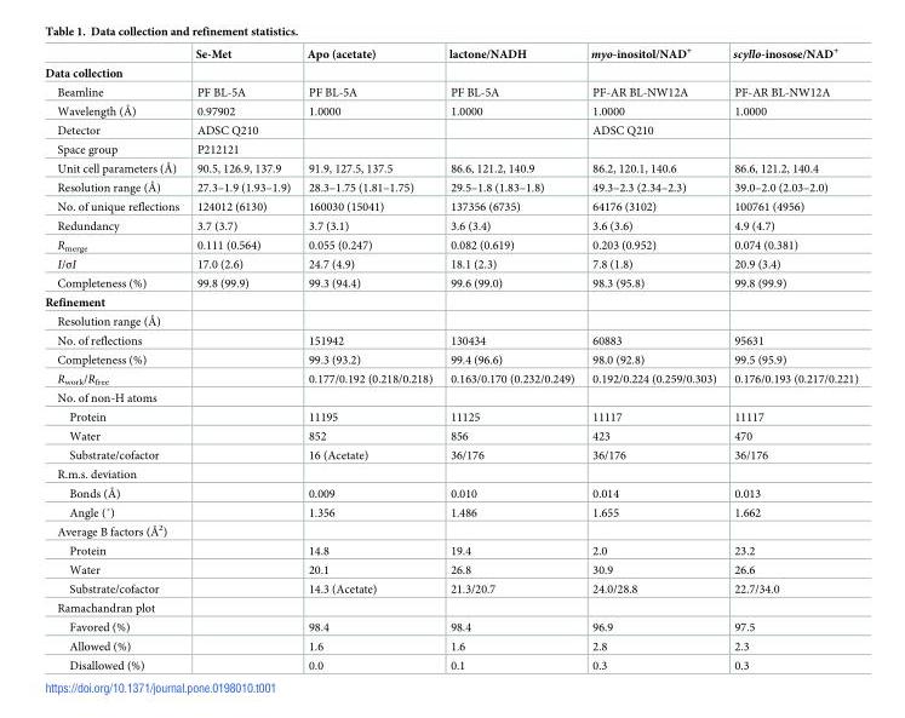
<table><thead><tr><td></td><td>Se-Met</td><td>Apo (acetate)</td><td>lactone/NADH</td><td>myo-inositol/NAD<sup>+</sup></td><td>scyllo-inosose/NAD<sup>+</sup></td></tr></thead><tbody><tr><td colspan="6">Data collection</td></tr><tr><td>Beamline</td><td>PF BL-5A</td><td>PF BL-5A</td><td>PF BL-5A</td><td>PF-AR BL-NW12A</td><td>PF-AR BL-NW12A</td></tr><tr><td>Wavelength (Å)</td><td>0.97902</td><td>1.0000</td><td>1.0000</td><td>1.0000</td><td>1.0000</td></tr><tr><td>Detector</td><td>ADSC Q210</td><td></td><td></td><td>ADSC Q210</td><td></td></tr><tr><td>Space group</td><td>P212121</td><td></td><td></td><td></td><td></td></tr><tr><td>Unit cell parameters (Å)</td><td>90.5, 126.9, 137.9</td><td>91.9, 127.5, 137.5</td><td>86.6, 121.2, 140.9</td><td>86.2, 120.1, 140.6</td><td>86.6, 121.2, 140.4</td></tr><tr><td>Resolution range (Å)</td><td>27.3–1.9 (1.93–1.9)</td><td>28.3–1.75 (1.81–1.75)</td><td>29.5–1.8 (1.83–1.8)</td><td>49.3–2.3 (2.34–2.3)</td><td>39.0–2.0 (2.03–2.0)</td></tr><tr><td>No. of unique reflections</td><td>124012 (6130)</td><td>160030 (15041)</td><td>137356 (6735)</td><td>64176 (3102)</td><td>100761 (4956)</td></tr><tr><td>Redundancy</td><td>3.7 (3.7)</td><td>3.7 (3.1)</td><td>3.6 (3.4)</td><td>3.6 (3.6)</td><td>4.9 (4.7)</td></tr><tr><td>R<sub>merge</sub></td><td>0.111 (0.564)</td><td>0.055 (0.247)</td><td>0.082 (0.619)</td><td>0.203 (0.952)</td><td>0.074 (0.381)</td></tr><tr><td>I/σI</td><td>17.0 (2.6)</td><td>24.7 (4.9)</td><td>18.1 (2.3)</td><td>7.8 (1.8)</td><td>20.9 (3.4)</td></tr><tr><td>Completeness (%)</td><td>99.8 (99.9)</td><td>99.3 (94.4)</td><td>99.6 (99.0)</td><td>98.3 (95.8)</td><td>99.8 (99.9)</td></tr><tr><td colspan="6">Refinement</td></tr><tr><td colspan="6">Resolution range (Å)</td></tr><tr><td>No. of reflections</td><td></td><td>151942</td><td>130434</td><td>60883</td><td>95631</td></tr><tr><td>Completeness (%)</td><td></td><td>99.3 (93.2)</td><td>99.4 (96.6)</td><td>98.0 (92.8)</td><td>99.5 (95.9)</td></tr><tr><td>R<sub>work</sub>/R<sub>free</sub></td><td></td><td>0.177/0.192 (0.218/0.218)</td><td>0.163/0.170 (0.232/0.249)</td><td>0.192/0.224 (0.259/0.303)</td><td>0.176/0.193 (0.217/0.221)</td></tr><tr><td colspan="6">No. of non-H atoms</td></tr><tr><td>Protein</td><td></td><td>11195</td><td>11125</td><td>11117</td><td>11117</td></tr><tr><td>Water</td><td></td><td>852</td><td>856</td><td>423</td><td>470</td></tr><tr><td>Substrate/cofactor</td><td></td><td>16 (Acetate)</td><td>36/176</td><td>36/176</td><td>36/176</td></tr><tr><td colspan="6">R.m.s. deviation</td></tr><tr><td>Bonds (Å)</td><td></td><td>0.009</td><td>0.010</td><td>0.014</td><td>0.013</td></tr><tr><td>Angle (˚)</td><td></td><td>1.356</td><td>1.486</td><td>1.655</td><td>1.662</td></tr><tr><td colspan="6">Average B factors (Å<sup>2</sup>)</td></tr><tr><td>Protein</td><td></td><td>14.8</td><td>19.4</td><td>2.0</td><td>23.2</td></tr><tr><td>Water</td><td></td><td>20.1</td><td>26.8</td><td>30.9</td><td>26.6</td></tr><tr><td>Substrate/cofactor</td><td></td><td>14.3 (Acetate)</td><td>21.3/20.7</td><td>24.0/28.8</td><td>22.7/34.0</td></tr><tr><td colspan="6">Ramachandran plot</td></tr><tr><td>Favored (%)</td><td></td><td>98.4</td><td>98.4</td><td>96.9</td><td>97.5</td></tr><tr><td>Allowed (%)</td><td></td><td>1.6</td><td>1.6</td><td>2.8</td><td>2.3</td></tr><tr><td>Disallowed (%)</td><td></td><td>0.0</td><td>0.1</td><td>0.3</td><td>0.3</td></tr></tbody></table>